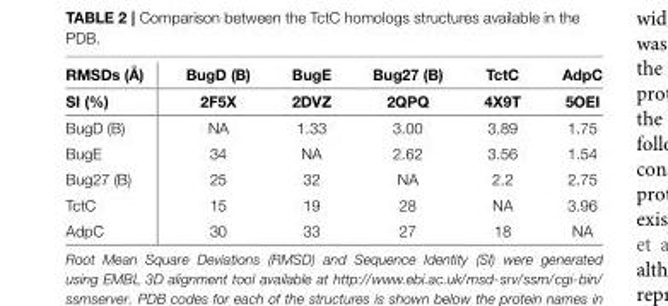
<table><thead><tr><td>RMSDs (Å)</td><td>BugD (B)</td><td>BugE</td><td>Bug27 (B)</td><td>TctC</td><td>AdpC</td></tr></thead><tbody><tr><td>SI (%)</td><td>2F5X</td><td>2DVZ</td><td>2QPQ</td><td>4X9T</td><td>5OEI</td></tr><tr><td>BugD (B)</td><td>NA</td><td>1.33</td><td>3.00</td><td>3.89</td><td>1.75</td></tr><tr><td>BugE</td><td>34</td><td>NA</td><td>2.62</td><td>3.56</td><td>1.54</td></tr><tr><td>Bug27 (B)</td><td>25</td><td>32</td><td>NA</td><td>2.2</td><td>2.75</td></tr><tr><td>TctC</td><td>15</td><td>19</td><td>28</td><td>NA</td><td>3.96</td></tr><tr><td>AdpC</td><td>30</td><td>33</td><td>27</td><td>18</td><td>NA</td></tr></tbody></table>